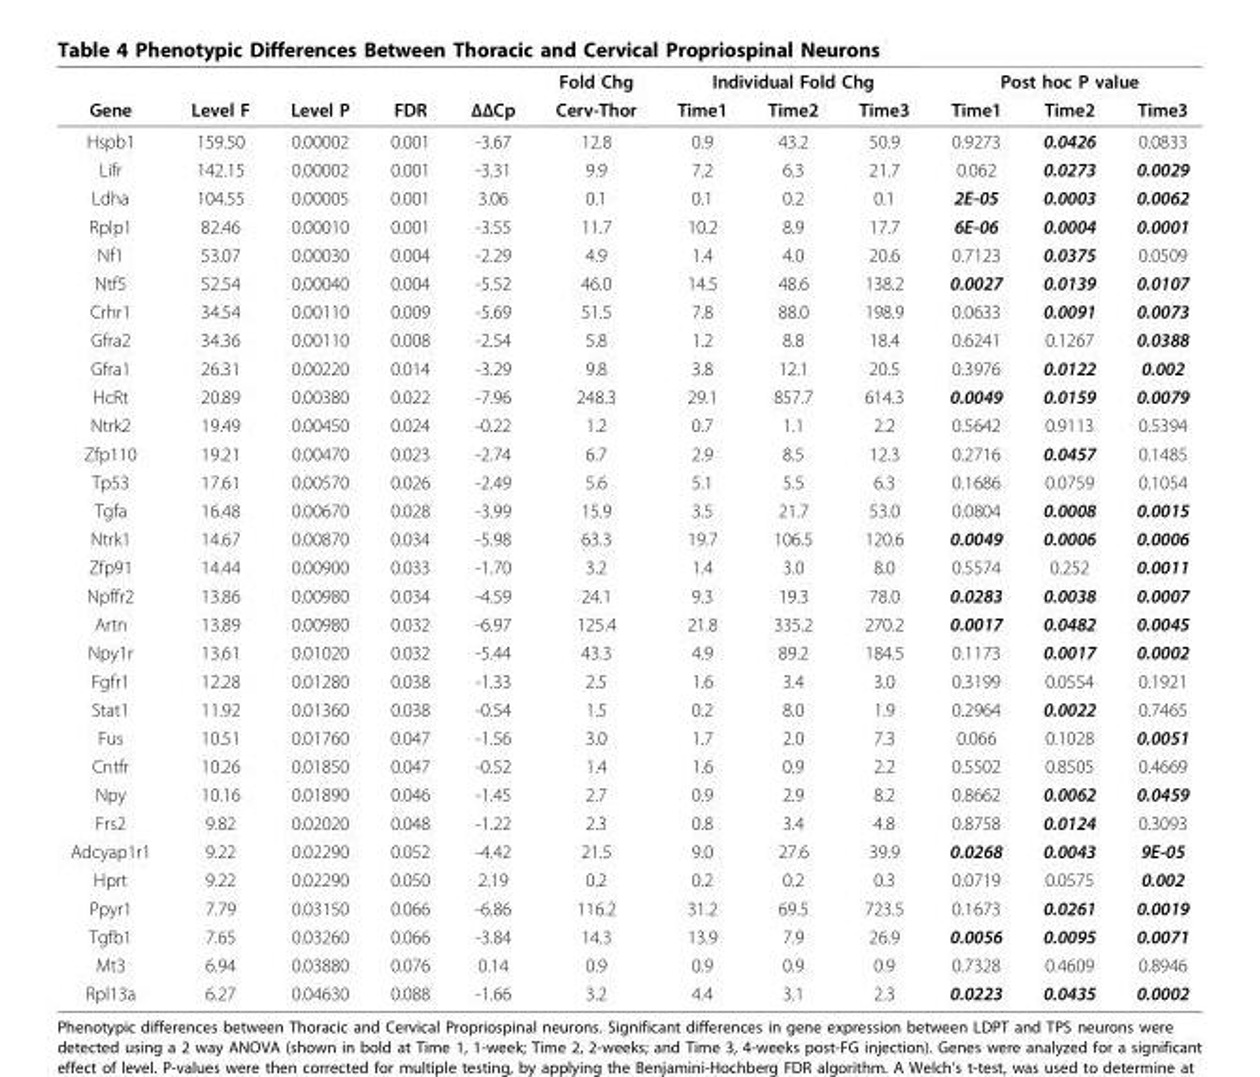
<table><thead><tr><td rowspan="2">Gene</td><td rowspan="2">Level F</td><td rowspan="2">Level P</td><td rowspan="2">FDR</td><td rowspan="2">ΔΔCp</td><td rowspan="2">Fold Chg Cerv-Thor</td><td colspan="3">Individual Fold Chg</td><td colspan="3">Post hoc P value</td></tr><tr><td>Time1</td><td>Time2</td><td>Time3</td><td>Time1</td><td>Time2</td><td>Time3</td></tr></thead><tbody><tr><td>Hspb1</td><td>159.50</td><td>0.00002</td><td>0.001</td><td>-3.67</td><td>12.8</td><td>0.9</td><td>43.2</td><td>50.9</td><td>0.9273</td><td>0.0426</td><td>0.0833</td></tr><tr><td>Lifr</td><td>142.15</td><td>0.00002</td><td>0.001</td><td>-3.31</td><td>9.9</td><td>7.2</td><td>6.3</td><td>21.7</td><td>0.062</td><td>0.0273</td><td>0.0029</td></tr><tr><td>Ldha</td><td>104.55</td><td>0.00005</td><td>0.001</td><td>3.06</td><td>0.1</td><td>0.1</td><td>0.2</td><td>0.1</td><td>2E-05</td><td>0.0003</td><td>0.0062</td></tr><tr><td>Rplp1</td><td>82.46</td><td>0.00010</td><td>0.001</td><td>-3.55</td><td>11.7</td><td>10.2</td><td>8.9</td><td>17.7</td><td>6E-06</td><td>0.0004</td><td>0.0001</td></tr><tr><td>Nf1</td><td>53.07</td><td>0.00030</td><td>0.004</td><td>-2.29</td><td>4.9</td><td>1.4</td><td>4.0</td><td>20.6</td><td>0.7123</td><td>0.0375</td><td>0.0509</td></tr><tr><td>Ntf5</td><td>52.54</td><td>0.00040</td><td>0.004</td><td>-5.52</td><td>46.0</td><td>14.5</td><td>48.6</td><td>138.2</td><td>0.0027</td><td>0.0139</td><td>0.0107</td></tr><tr><td>Crhr1</td><td>34.54</td><td>0.00110</td><td>0.009</td><td>-5.69</td><td>51.5</td><td>7.8</td><td>88.0</td><td>198.9</td><td>0.0633</td><td>0.0091</td><td>0.0073</td></tr><tr><td>Gfra2</td><td>34.36</td><td>0.00110</td><td>0.008</td><td>-2.54</td><td>5.8</td><td>1.2</td><td>8.8</td><td>18.4</td><td>0.6241</td><td>0.1267</td><td>0.0388</td></tr><tr><td>Gfra1</td><td>26.31</td><td>0.00220</td><td>0.014</td><td>-3.29</td><td>9.8</td><td>3.8</td><td>12.1</td><td>20.5</td><td>0.3976</td><td>0.0122</td><td>0.002</td></tr><tr><td>HcRt</td><td>20.89</td><td>0.00380</td><td>0.022</td><td>-7.96</td><td>248.3</td><td>29.1</td><td>857.7</td><td>614.3</td><td>0.0049</td><td>0.0159</td><td>0.0079</td></tr><tr><td>Ntrk2</td><td>19.49</td><td>0.00450</td><td>0.024</td><td>-0.22</td><td>1.2</td><td>0.7</td><td>1.1</td><td>2.2</td><td>0.5642</td><td>0.9113</td><td>0.5394</td></tr><tr><td>Zfp110</td><td>19.21</td><td>0.00470</td><td>0.023</td><td>-2.74</td><td>6.7</td><td>2.9</td><td>8.5</td><td>12.3</td><td>0.2716</td><td>0.0457</td><td>0.1485</td></tr><tr><td>Tp53</td><td>17.61</td><td>0.00570</td><td>0.026</td><td>-2.49</td><td>5.6</td><td>5.1</td><td>5.5</td><td>6.3</td><td>0.1686</td><td>0.0759</td><td>0.1054</td></tr><tr><td>Tgfa</td><td>16.48</td><td>0.00670</td><td>0.028</td><td>-3.99</td><td>15.9</td><td>3.5</td><td>21.7</td><td>53.0</td><td>0.0804</td><td>0.0008</td><td>0.0015</td></tr><tr><td>Ntrk1</td><td>14.67</td><td>0.00870</td><td>0.034</td><td>-5.98</td><td>63.3</td><td>19.7</td><td>106.5</td><td>120.6</td><td>0.0049</td><td>0.0006</td><td>0.0006</td></tr><tr><td>Zfp91</td><td>14.44</td><td>0.00900</td><td>0.033</td><td>-1.70</td><td>3.2</td><td>1.4</td><td>3.0</td><td>8.0</td><td>0.5574</td><td>0.252</td><td>0.0011</td></tr><tr><td>Npffr2</td><td>13.86</td><td>0.00980</td><td>0.034</td><td>-4.59</td><td>24.1</td><td>9.3</td><td>19.3</td><td>78.0</td><td>0.0283</td><td>0.0038</td><td>0.0007</td></tr><tr><td>Artn</td><td>13.89</td><td>0.00980</td><td>0.032</td><td>-6.97</td><td>125.4</td><td>21.8</td><td>335.2</td><td>270.2</td><td>0.0017</td><td>0.0482</td><td>0.0045</td></tr><tr><td>Npy1r</td><td>13.61</td><td>0.01020</td><td>0.032</td><td>-5.44</td><td>43.3</td><td>4.9</td><td>89.2</td><td>184.5</td><td>0.1173</td><td>0.0017</td><td>0.0002</td></tr><tr><td>Fgfr1</td><td>12.28</td><td>0.01280</td><td>0.038</td><td>-1.33</td><td>2.5</td><td>1.6</td><td>3.4</td><td>3.0</td><td>0.3199</td><td>0.0554</td><td>0.1921</td></tr><tr><td>Stat1</td><td>11.92</td><td>0.01360</td><td>0.038</td><td>-0.54</td><td>1.5</td><td>0.2</td><td>8.0</td><td>1.9</td><td>0.2964</td><td>0.0022</td><td>0.7465</td></tr><tr><td>Fus</td><td>10.51</td><td>0.01760</td><td>0.047</td><td>-1.56</td><td>3.0</td><td>1.7</td><td>2.0</td><td>7.3</td><td>0.066</td><td>0.1028</td><td>0.0051</td></tr><tr><td>Cntfr</td><td>10.26</td><td>0.01850</td><td>0.047</td><td>-0.52</td><td>1.4</td><td>1.6</td><td>0.9</td><td>2.2</td><td>0.5502</td><td>0.8505</td><td>0.4669</td></tr><tr><td>Npy</td><td>10.16</td><td>0.01890</td><td>0.046</td><td>-1.45</td><td>2.7</td><td>0.9</td><td>2.9</td><td>8.2</td><td>0.8662</td><td>0.0062</td><td>0.0459</td></tr><tr><td>Frs2</td><td>9.82</td><td>0.02020</td><td>0.048</td><td>-1.22</td><td>2.3</td><td>0.8</td><td>3.4</td><td>4.8</td><td>0.8758</td><td>0.0124</td><td>0.3093</td></tr><tr><td>Adcyap1r1</td><td>9.22</td><td>0.02290</td><td>0.052</td><td>-4.42</td><td>21.5</td><td>9.0</td><td>27.6</td><td>39.9</td><td>0.0268</td><td>0.0043</td><td>9E-05</td></tr><tr><td>Hprt</td><td>9.22</td><td>0.02290</td><td>0.050</td><td>2.19</td><td>0.2</td><td>0.2</td><td>0.2</td><td>0.3</td><td>0.0719</td><td>0.0575</td><td>0.002</td></tr><tr><td>Ppyr1</td><td>7.79</td><td>0.03150</td><td>0.066</td><td>-6.86</td><td>116.2</td><td>31.2</td><td>69.5</td><td>723.5</td><td>0.1673</td><td>0.0261</td><td>0.0019</td></tr><tr><td>Tgfb1</td><td>7.65</td><td>0.03260</td><td>0.066</td><td>-3.84</td><td>14.3</td><td>13.9</td><td>7.9</td><td>26.9</td><td>0.0056</td><td>0.0095</td><td>0.0071</td></tr><tr><td>Mt3</td><td>6.94</td><td>0.03880</td><td>0.076</td><td>0.14</td><td>0.9</td><td>0.9</td><td>0.9</td><td>0.9</td><td>0.7328</td><td>0.4609</td><td>0.8946</td></tr><tr><td>Rpl13a</td><td>6.27</td><td>0.04630</td><td>0.088</td><td>-1.66</td><td>3.2</td><td>4.4</td><td>3.1</td><td>2.3</td><td>0.0223</td><td>0.0435</td><td>0.0002</td></tr></tbody></table>